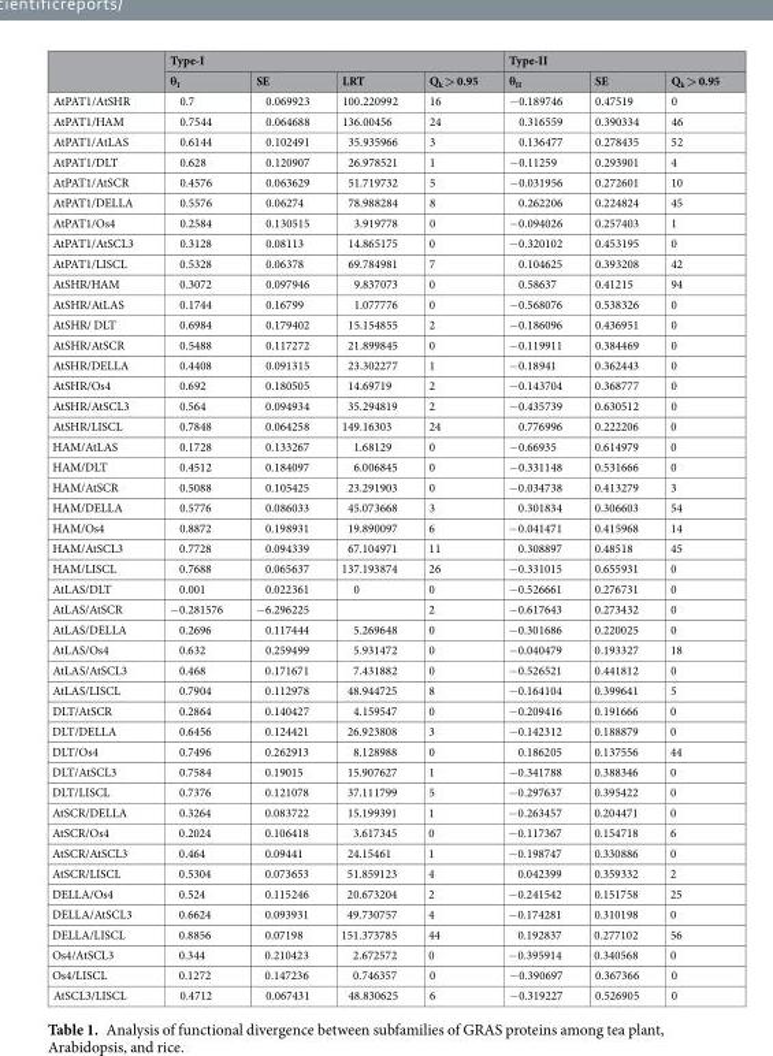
<table><thead><tr><td rowspan="2"></td><td colspan="4">Type-I</td><td colspan="3">Type-II</td></tr><tr><td>θ<sub>I</sub></td><td>SE</td><td>LRT</td><td>Q<sub>k</sub> &gt; 0.95</td><td>θ<sub>II</sub></td><td>SE</td><td>Q<sub>k</sub> &gt; 0.95</td></tr></thead><tbody><tr><td>AtPAT1/AtSHR</td><td>0.7</td><td>0.069923</td><td>100.220992</td><td>16</td><td>−0.189746</td><td>0.47519</td><td>0</td></tr><tr><td>AtPAT1/HAM</td><td>0.7544</td><td>0.064688</td><td>136.00456</td><td>24</td><td>0.316559</td><td>0.390334</td><td>46</td></tr><tr><td>AtPAT1/AtLAS</td><td>0.6144</td><td>0.102491</td><td>35.935966</td><td>3</td><td>0.136477</td><td>0.278435</td><td>52</td></tr><tr><td>AtPAT1/DLT</td><td>0.628</td><td>0.120907</td><td>26.978521</td><td>1</td><td>−0.11259</td><td>0.293901</td><td>4</td></tr><tr><td>AtPAT1/AtSCR</td><td>0.4576</td><td>0.063629</td><td>51.719732</td><td>5</td><td>−0.031956</td><td>0.272601</td><td>10</td></tr><tr><td>AtPAT1/DELLA</td><td>0.5576</td><td>0.06274</td><td>78.988284</td><td>8</td><td>0.262206</td><td>0.224824</td><td>45</td></tr><tr><td>AtPAT1/Os4</td><td>0.2584</td><td>0.130515</td><td>3.919778</td><td>0</td><td>−0.094026</td><td>0.257403</td><td>1</td></tr><tr><td>AtPAT1/AtSCL3</td><td>0.3128</td><td>0.08113</td><td>14.865175</td><td>0</td><td>−0.320102</td><td>0.453195</td><td>0</td></tr><tr><td>AtPAT1/LISCL</td><td>0.5328</td><td>0.06378</td><td>69.784981</td><td>7</td><td>0.104625</td><td>0.393208</td><td>42</td></tr><tr><td>AtSHR/HAM</td><td>0.3072</td><td>0.097946</td><td>9.837073</td><td>0</td><td>0.58637</td><td>0.41215</td><td>94</td></tr><tr><td>AtSHR/AtLAS</td><td>0.1744</td><td>0.16799</td><td>1.077776</td><td>0</td><td>−0.568076</td><td>0.538326</td><td>0</td></tr><tr><td>AtSHR/ DLT</td><td>0.6984</td><td>0.179402</td><td>15.154855</td><td>2</td><td>−0.186096</td><td>0.436951</td><td>0</td></tr><tr><td>AtSHR/AtSCR</td><td>0.5488</td><td>0.117272</td><td>21.899845</td><td>0</td><td>−0.119911</td><td>0.384469</td><td>0</td></tr><tr><td>AtSHR/DELLA</td><td>0.4408</td><td>0.091315</td><td>23.302277</td><td>1</td><td>−0.18941</td><td>0.362443</td><td>0</td></tr><tr><td>AtSHR/Os4</td><td>0.692</td><td>0.180505</td><td>14.69719</td><td>2</td><td>−0.143704</td><td>0.368777</td><td>0</td></tr><tr><td>AtSHR/AtSCL3</td><td>0.564</td><td>0.094934</td><td>35.294819</td><td>2</td><td>−0.435739</td><td>0.630512</td><td>0</td></tr><tr><td>AtSHR/LISCL</td><td>0.7848</td><td>0.064258</td><td>149.16303</td><td>24</td><td>0.776996</td><td>0.222206</td><td>0</td></tr><tr><td>HAM/AtLAS</td><td>0.1728</td><td>0.133267</td><td>1.68129</td><td>0</td><td>−0.66935</td><td>0.614979</td><td>0</td></tr><tr><td>HAM/DLT</td><td>0.4512</td><td>0.184097</td><td>6.006845</td><td>0</td><td>−0.331148</td><td>0.531666</td><td>0</td></tr><tr><td>HAM/AtSCR</td><td>0.5088</td><td>0.105425</td><td>23.291903</td><td>0</td><td>−0.034738</td><td>0.413279</td><td>3</td></tr><tr><td>HAM/DELLA</td><td>0.5776</td><td>0.086033</td><td>45.073668</td><td>3</td><td>0.301834</td><td>0.306603</td><td>54</td></tr><tr><td>HAM/Os4</td><td>0.8872</td><td>0.198931</td><td>19.890097</td><td>6</td><td>−0.041471</td><td>0.415968</td><td>14</td></tr><tr><td>HAM/AtSCL3</td><td>0.7728</td><td>0.094339</td><td>67.104971</td><td>11</td><td>0.308897</td><td>0.48518</td><td>45</td></tr><tr><td>HAM/LISCL</td><td>0.7688</td><td>0.065637</td><td>137.193874</td><td>26</td><td>−0.331015</td><td>0.655931</td><td>0</td></tr><tr><td>AtLAS/DLT</td><td>0.001</td><td>0.022361</td><td>0</td><td>0</td><td>−0.526661</td><td>0.276731</td><td>0</td></tr><tr><td>AtLAS/AtSCR</td><td>−0.281576</td><td>−6.296225</td><td></td><td>2</td><td>−0.617643</td><td>0.273432</td><td>0</td></tr><tr><td>AtLAS/DELLA</td><td>0.2696</td><td>0.117444</td><td>5.269648</td><td>0</td><td>−0.301686</td><td>0.220025</td><td>0</td></tr><tr><td>AtLAS/Os4</td><td>0.632</td><td>0.259499</td><td>5.931472</td><td>0</td><td>−0.040479</td><td>0.193327</td><td>18</td></tr><tr><td>AtLAS/AtSCL3</td><td>0.468</td><td>0.171671</td><td>7.431882</td><td>0</td><td>−0.526521</td><td>0.441812</td><td>0</td></tr><tr><td>AtLAS/LISCL</td><td>0.7904</td><td>0.112978</td><td>48.944725</td><td>8</td><td>−0.164104</td><td>0.399641</td><td>5</td></tr><tr><td>DLT/AtSCR</td><td>0.2864</td><td>0.140427</td><td>4.159547</td><td>0</td><td>−0.209416</td><td>0.191666</td><td>0</td></tr><tr><td>DLT/DELLA</td><td>0.6456</td><td>0.124421</td><td>26.923808</td><td>3</td><td>−0.142312</td><td>0.188879</td><td>0</td></tr><tr><td>DLT/Os4</td><td>0.7496</td><td>0.262913</td><td>8.128988</td><td>0</td><td>0.186205</td><td>0.137556</td><td>44</td></tr><tr><td>DLT/AtSCL3</td><td>0.7584</td><td>0.19015</td><td>15.907627</td><td>1</td><td>−0.341788</td><td>0.388346</td><td>0</td></tr><tr><td>DLT/LISCL</td><td>0.7376</td><td>0.121078</td><td>37.111799</td><td>5</td><td>−0.297637</td><td>0.395422</td><td>0</td></tr><tr><td>AtSCR/DELLA</td><td>0.3264</td><td>0.083722</td><td>15.199391</td><td>1</td><td>−0.263457</td><td>0.204471</td><td>0</td></tr><tr><td>AtSCR/Os4</td><td>0.2024</td><td>0.106418</td><td>3.617345</td><td>0</td><td>−0.117367</td><td>0.154718</td><td>6</td></tr><tr><td>AtSCR/AtSCL3</td><td>0.464</td><td>0.09441</td><td>24.15461</td><td>1</td><td>−0.198747</td><td>0.330886</td><td>0</td></tr><tr><td>AtSCR/LISCL</td><td>0.5304</td><td>0.073653</td><td>51.859123</td><td>4</td><td>0.042399</td><td>0.359332</td><td>2</td></tr><tr><td>DELLA/Os4</td><td>0.524</td><td>0.115246</td><td>20.673204</td><td>2</td><td>−0.241542</td><td>0.151758</td><td>25</td></tr><tr><td>DELLA/AtSCL3</td><td>0.6624</td><td>0.093931</td><td>49.730757</td><td>4</td><td>−0.174281</td><td>0.310198</td><td>0</td></tr><tr><td>DELLA/LISCL</td><td>0.8856</td><td>0.07198</td><td>151.373785</td><td>44</td><td>0.192837</td><td>0.277102</td><td>56</td></tr><tr><td>Os4/AtSCL3</td><td>0.344</td><td>0.210423</td><td>2.672572</td><td>0</td><td>−0.395914</td><td>0.340568</td><td>0</td></tr><tr><td>Os4/LISCL</td><td>0.1272</td><td>0.147236</td><td>0.746357</td><td>0</td><td>−0.390697</td><td>0.367366</td><td>0</td></tr><tr><td>AtSCL3/LISCL</td><td>0.4712</td><td>0.067431</td><td>48.830625</td><td>6</td><td>−0.319227</td><td>0.526905</td><td>0</td></tr></tbody></table>